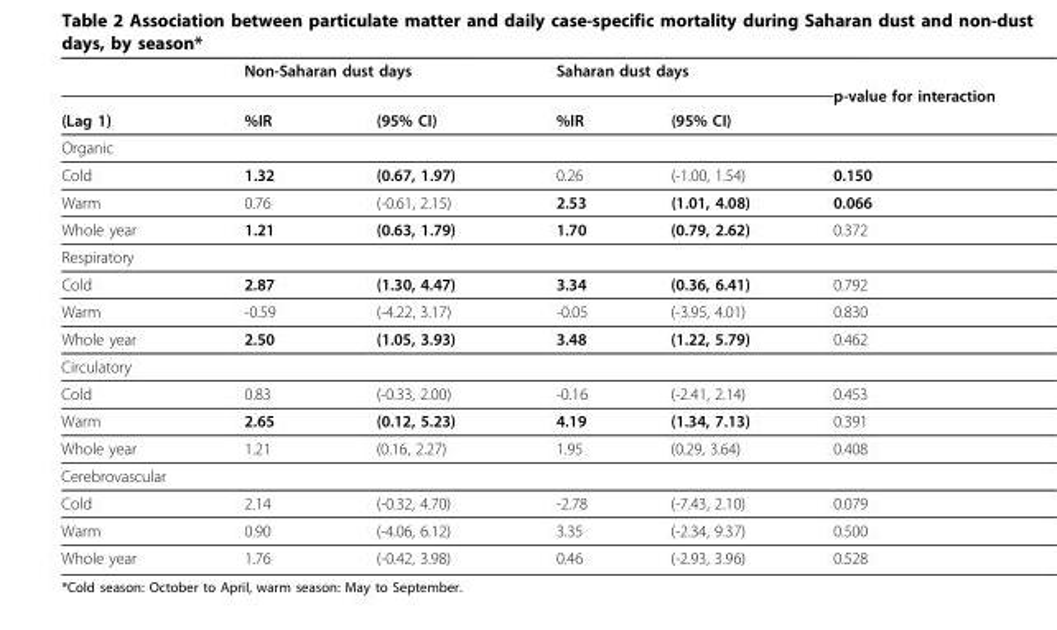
<table><thead><tr><td rowspan="3">(Lag 1)</td><td colspan="2">Non-Saharan dust days</td><td colspan="2">Saharan dust days</td><td rowspan="3">p-value for interaction</td></tr><tr><td rowspan="2">%IR</td><td rowspan="2">(95% CI)</td><td rowspan="2">%IR</td><td rowspan="2">(95% CI)</td></tr><tr></tr></thead><tbody><tr><td colspan="6">Organic</td></tr><tr><td>Cold</td><td>1.32</td><td>(0.67, 1.97)</td><td>0.26</td><td>(-1.00, 1.54)</td><td>0.150</td></tr><tr><td>Warm</td><td>0.76</td><td>(-0.61, 2.15)</td><td>2.53</td><td>(1.01, 4.08)</td><td>0.066</td></tr><tr><td>Whole year</td><td>1.21</td><td>(0.63, 1.79)</td><td>1.70</td><td>(0.79, 2.62)</td><td>0.372</td></tr><tr><td colspan="6">Respiratory</td></tr><tr><td>Cold</td><td>2.87</td><td>(1.30, 4.47)</td><td>3.34</td><td>(0.36, 6.41)</td><td>0.792</td></tr><tr><td>Warm</td><td>-0.59</td><td>(-4.22, 3.17)</td><td>-0.05</td><td>(-3.95, 4.01)</td><td>0.830</td></tr><tr><td>Whole year</td><td>2.50</td><td>(1.05, 3.93)</td><td>3.48</td><td>(1.22, 5.79)</td><td>0.462</td></tr><tr><td colspan="6">Circulatory</td></tr><tr><td>Cold</td><td>0.83</td><td>(-0.33, 2.00)</td><td>-0.16</td><td>(-2.41, 2.14)</td><td>0.453</td></tr><tr><td>Warm</td><td>2.65</td><td>(0.12, 5.23)</td><td>4.19</td><td>(1.34, 7.13)</td><td>0.391</td></tr><tr><td>Whole year</td><td>1.21</td><td>(0.16, 2.27)</td><td>1.95</td><td>(0.29, 3.64)</td><td>0.408</td></tr><tr><td colspan="6">Cerebrovascular</td></tr><tr><td>Cold</td><td>2.14</td><td>(-0.32, 4.70)</td><td>-2.78</td><td>(-7.43, 2.10)</td><td>0.079</td></tr><tr><td>Warm</td><td>0.90</td><td>(-4.06, 6.12)</td><td>3.35</td><td>(-2.34, 9.37)</td><td>0.500</td></tr><tr><td>Whole year</td><td>1.76</td><td>(-0.42, 3.98)</td><td>0.46</td><td>(-2.93, 3.96)</td><td>0.528</td></tr></tbody></table>